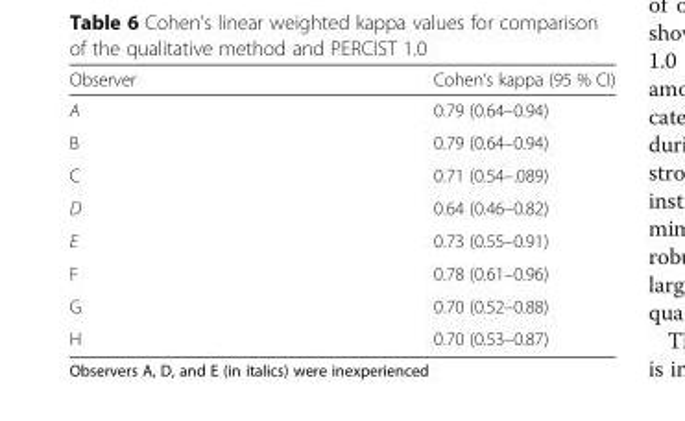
<table><thead><tr><td>Observer</td><td>Cohen’s kappa (95 % CI)</td></tr></thead><tbody><tr><td>A</td><td>0.79 (0.64–0.94)</td></tr><tr><td>B</td><td>0.79 (0.64–0.94)</td></tr><tr><td>C</td><td>0.71 (0.54–.089)</td></tr><tr><td>D</td><td>0.64 (0.46–0.82)</td></tr><tr><td>E</td><td>0.73 (0.55–0.91)</td></tr><tr><td>F</td><td>0.78 (0.61–0.96)</td></tr><tr><td>G</td><td>0.70 (0.52–0.88)</td></tr><tr><td>H</td><td>0.70 (0.53–0.87)</td></tr></tbody></table>